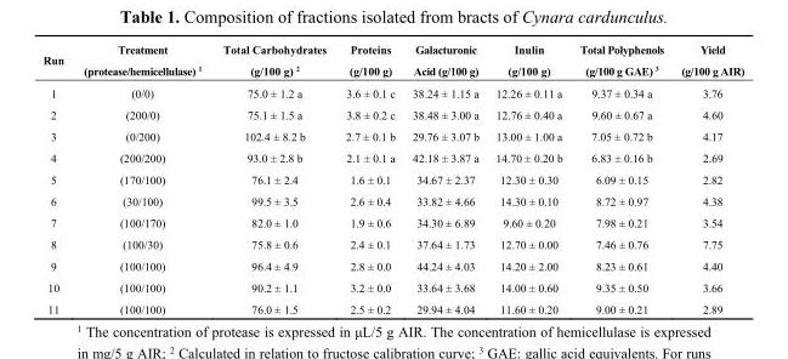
<table><thead><tr><td>Run</td><td>Treatment (protease/hemicellulase) <sup>1</sup></td><td>Total Carbohydrates (g/100 g) <sup>2</sup></td><td>Proteins (g/100 g)</td><td>Galacturonic Acid (g/100 g)</td><td>Inulin (g/100 g)</td><td>Total Polyphenols (g/100 g GAE) <sup>3</sup></td><td>Yield (g/100 g AIR)</td></tr></thead><tbody><tr><td>1</td><td>(0/0)</td><td>75.0 ± 1.2 a</td><td>3.6 ± 0.1 c</td><td>38.24 ± 1.15 a</td><td>12.26 ± 0.11 a</td><td>9.37 ± 0.34 a</td><td>3.76</td></tr><tr><td>2</td><td>(200/0)</td><td>75.1 ± 1.5 a</td><td>3.8 ± 0.2 c</td><td>38.48 ± 3.00 a</td><td>12.76 ± 0.40 a</td><td>9.60 ± 0.67 a</td><td>4.60</td></tr><tr><td>3</td><td>(0/200)</td><td>102.4 ± 8.2 b</td><td>2.7 ± 0.1 b</td><td>29.76 ± 3.07 b</td><td>13.00 ± 1.00 a</td><td>7.05 ± 0.72 b</td><td>4.17</td></tr><tr><td>4</td><td>(200/200)</td><td>93.0 ± 2.8 b</td><td>2.1 ± 0.1 a</td><td>42.18 ± 3.87 a</td><td>14.70 ± 0.20 b</td><td>6.83 ± 0.16 b</td><td>2.69</td></tr><tr><td>5</td><td>(170/100)</td><td>76.1 ± 2.4</td><td>1.6 ± 0.1</td><td>34.67 ± 2.37</td><td>12.30 ± 0.30</td><td>6.09 ± 0.15</td><td>2.82</td></tr><tr><td>6</td><td>(30/100)</td><td>99.5 ± 3.5</td><td>2.6 ± 0.4</td><td>33.82 ± 4.66</td><td>14.30 ± 0.10</td><td>8.72 ± 0.97</td><td>4.38</td></tr><tr><td>7</td><td>(100/170)</td><td>82.0 ± 1.0</td><td>1.9 ± 0.6</td><td>34.30 ± 6.89</td><td>9.60 ± 0.20</td><td>7.98 ± 0.21</td><td>3.54</td></tr><tr><td>8</td><td>(100/30)</td><td>75.8 ± 0.6</td><td>2.4 ± 0.1</td><td>37.64 ± 1.73</td><td>12.70 ± 0.00</td><td>7.46 ± 0.76</td><td>7.75</td></tr><tr><td>9</td><td>(100/100)</td><td>96.4 ± 4.9</td><td>2.8 ± 0.0</td><td>44.24 ± 4.03</td><td>14.20 ± 2.00</td><td>8.23 ± 0.61</td><td>4.40</td></tr><tr><td>10</td><td>(100/100)</td><td>90.2 ± 1.1</td><td>3.2 ± 0.0</td><td>33.64 ± 3.68</td><td>14.00 ± 0.60</td><td>9.35 ± 0.50</td><td>3.66</td></tr><tr><td>11</td><td>(100/100)</td><td>76.0 ± 1.5</td><td>2.5 ± 0.2</td><td>29.94 ± 4.04</td><td>11.60 ± 0.20</td><td>9.00 ± 0.21</td><td>2.89</td></tr></tbody></table>